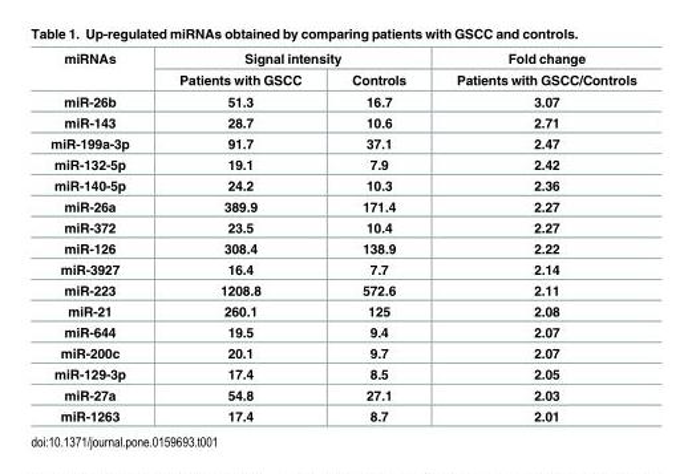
<table><thead><tr><td rowspan="2">miRNAs</td><td colspan="2">Signal intensity</td><td rowspan="2">Fold change Patients with GSCC/Controls</td></tr><tr><td>Patients with GSCC</td><td>Controls</td></tr></thead><tbody><tr><td>miR-26b</td><td>51.3</td><td>16.7</td><td>3.07</td></tr><tr><td>miR-143</td><td>28.7</td><td>10.6</td><td>2.71</td></tr><tr><td>miR-199a-3p</td><td>91.7</td><td>37.1</td><td>2.47</td></tr><tr><td>miR-132-5p</td><td>19.1</td><td>7.9</td><td>2.42</td></tr><tr><td>miR-140-5p</td><td>24.2</td><td>10.3</td><td>2.36</td></tr><tr><td>miR-26a</td><td>389.9</td><td>171.4</td><td>2.27</td></tr><tr><td>miR-372</td><td>23.5</td><td>10.4</td><td>2.27</td></tr><tr><td>miR-126</td><td>308.4</td><td>138.9</td><td>2.22</td></tr><tr><td>miR-3927</td><td>16.4</td><td>7.7</td><td>2.14</td></tr><tr><td>miR-223</td><td>1208.8</td><td>572.6</td><td>2.11</td></tr><tr><td>miR-21</td><td>260.1</td><td>125</td><td>2.08</td></tr><tr><td>miR-644</td><td>19.5</td><td>9.4</td><td>2.07</td></tr><tr><td>miR-200c</td><td>20.1</td><td>9.7</td><td>2.07</td></tr><tr><td>miR-129-3p</td><td>17.4</td><td>8.5</td><td>2.05</td></tr><tr><td>miR-27a</td><td>54.8</td><td>27.1</td><td>2.03</td></tr><tr><td>miR-1263</td><td>17.4</td><td>8.7</td><td>2.01</td></tr></tbody></table>